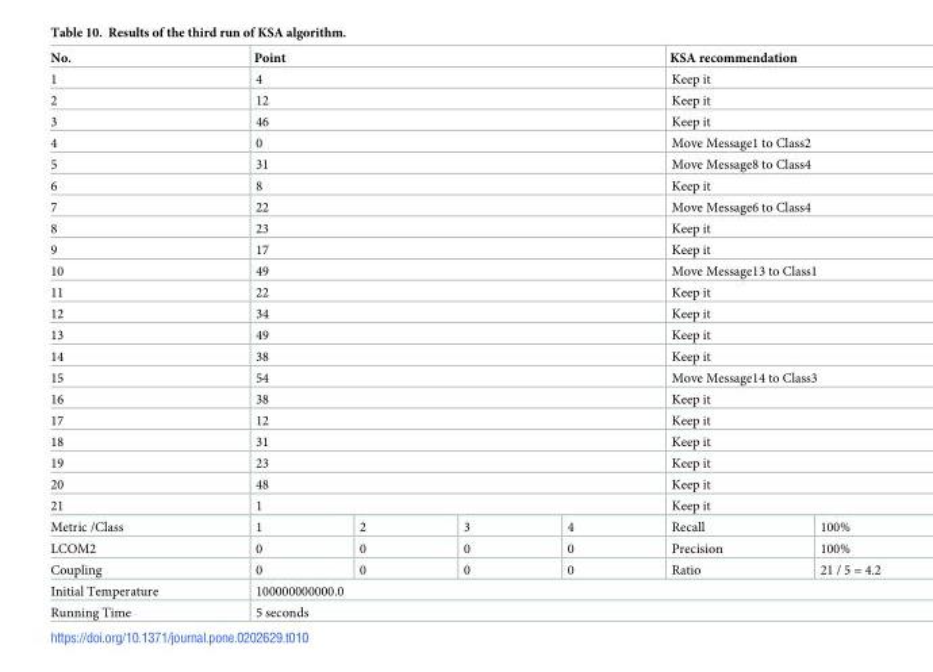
<table><thead><tr><td>No.</td><td colspan="4">Point</td><td colspan="2">KSA recommendation</td></tr></thead><tbody><tr><td>1</td><td colspan="4">4</td><td colspan="2">Keep it</td></tr><tr><td>2</td><td colspan="4">12</td><td colspan="2">Keep it</td></tr><tr><td>3</td><td colspan="4">46</td><td colspan="2">Keep it</td></tr><tr><td>4</td><td colspan="4">0</td><td colspan="2">Move Message1 to Class2</td></tr><tr><td>5</td><td colspan="4">31</td><td colspan="2">Move Message8 to Class4</td></tr><tr><td>6</td><td colspan="4">8</td><td colspan="2">Keep it</td></tr><tr><td>7</td><td colspan="4">22</td><td colspan="2">Move Message6 to Class4</td></tr><tr><td>8</td><td colspan="4">23</td><td colspan="2">Keep it</td></tr><tr><td>9</td><td colspan="4">17</td><td colspan="2">Keep it</td></tr><tr><td>10</td><td colspan="4">49</td><td colspan="2">Move Message13 to Class1</td></tr><tr><td>11</td><td colspan="4">22</td><td colspan="2">Keep it</td></tr><tr><td>12</td><td colspan="4">34</td><td colspan="2">Keep it</td></tr><tr><td>13</td><td colspan="4">49</td><td colspan="2">Keep it</td></tr><tr><td>14</td><td colspan="4">38</td><td colspan="2">Keep it</td></tr><tr><td>15</td><td colspan="4">54</td><td colspan="2">Move Message14 to Class3</td></tr><tr><td>16</td><td colspan="4">38</td><td colspan="2">Keep it</td></tr><tr><td>17</td><td colspan="4">12</td><td colspan="2">Keep it</td></tr><tr><td>18</td><td colspan="4">31</td><td colspan="2">Keep it</td></tr><tr><td>19</td><td colspan="4">23</td><td colspan="2">Keep it</td></tr><tr><td>20</td><td colspan="4">48</td><td colspan="2">Keep it</td></tr><tr><td>21</td><td colspan="4">1</td><td colspan="2">Keep it</td></tr><tr><td>Metric /Class</td><td>1</td><td>2</td><td>3</td><td>4</td><td>Recall</td><td>100%</td></tr><tr><td>LCOM2</td><td>0</td><td>0</td><td>0</td><td>0</td><td>Precision</td><td>100%</td></tr><tr><td>Coupling</td><td>0</td><td>0</td><td>0</td><td>0</td><td>Ratio</td><td>21 / 5 = 4.2</td></tr><tr><td>Initial Temperature</td><td colspan="6">100000000000.0</td></tr><tr><td>Running Time</td><td colspan="6">5 seconds</td></tr></tbody></table>